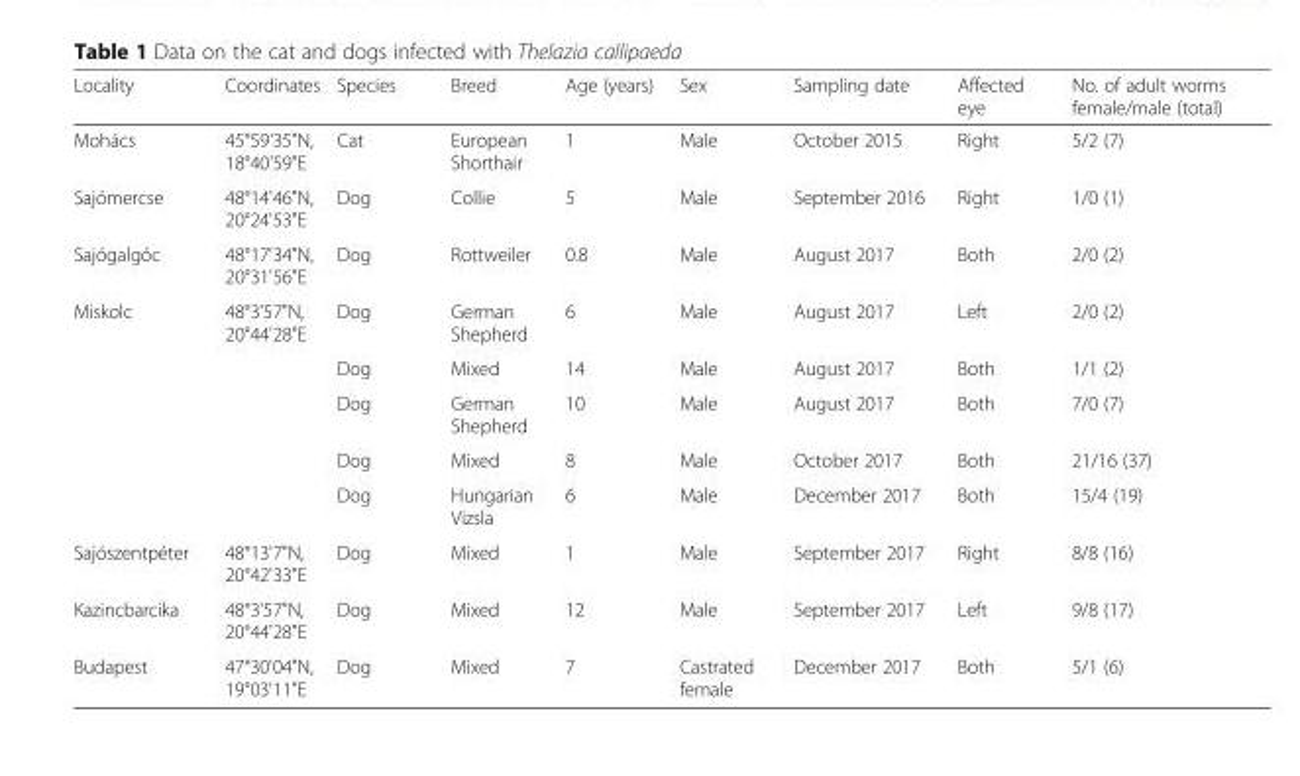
<table><thead><tr><td>Locality</td><td>Coordinates</td><td>Species</td><td>Breed</td><td>Age (years)</td><td>Sex</td><td>Sampling date</td><td>Affected eye</td><td>No. of adult worms female/male (total)</td></tr></thead><tbody><tr><td>Mohács</td><td>45°59&#x27;35&quot;N, 18°40&#x27;59&quot;E</td><td>Cat</td><td>European Shorthair</td><td>1</td><td>Male</td><td>October 2015</td><td>Right</td><td>5/2 (7)</td></tr><tr><td>Sajómercse</td><td>48°14&#x27;46&quot;N, 20°24&#x27;53&quot;E</td><td>Dog</td><td>Collie</td><td>5</td><td>Male</td><td>September 2016</td><td>Right</td><td>1/0 (1)</td></tr><tr><td>Sajógalgóc</td><td>48°17&#x27;34&quot;N, 20°31&#x27;56&quot;E</td><td>Dog</td><td>Rottweiler</td><td>0.8</td><td>Male</td><td>August 2017</td><td>Both</td><td>2/0 (2)</td></tr><tr><td rowspan="5">Miskolc</td><td rowspan="5">48°3&#x27;57&quot;N, 20°44&#x27;28&quot;E</td><td>Dog</td><td>German Shepherd</td><td>6</td><td>Male</td><td>August 2017</td><td>Left</td><td>2/0 (2)</td></tr><tr><td>Dog</td><td>Mixed</td><td>14</td><td>Male</td><td>August 2017</td><td>Both</td><td>1/1 (2)</td></tr><tr><td>Dog</td><td>German Shepherd</td><td>10</td><td>Male</td><td>August 2017</td><td>Both</td><td>7/0 (7)</td></tr><tr><td>Dog</td><td>Mixed</td><td>8</td><td>Male</td><td>October 2017</td><td>Both</td><td>21/16 (37)</td></tr><tr><td>Dog</td><td>Hungarian Vizsla</td><td>6</td><td>Male</td><td>December 2017</td><td>Both</td><td>15/4 (19)</td></tr><tr><td>Sajószentpéter</td><td>48°13&#x27;7&quot;N, 20°42&#x27;33&quot;E</td><td>Dog</td><td>Mixed</td><td>1</td><td>Male</td><td>September 2017</td><td>Right</td><td>8/8 (16)</td></tr><tr><td>Kazincbarcika</td><td>48°3&#x27;57&quot;N, 20°44&#x27;28&quot;E</td><td>Dog</td><td>Mixed</td><td>12</td><td>Male</td><td>September 2017</td><td>Left</td><td>9/8 (17)</td></tr><tr><td>Budapest</td><td>47°30&#x27;04&quot;N, 19°03&#x27;11&quot;E</td><td>Dog</td><td>Mixed</td><td>7</td><td>Castrated female</td><td>December 2017</td><td>Both</td><td>5/1 (6)</td></tr></tbody></table>